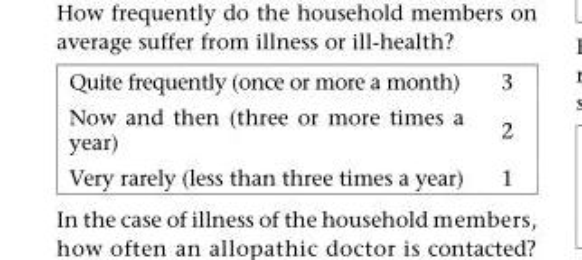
<table><tbody><tr><td>Quite frequently (once or more a month)</td><td>3</td></tr><tr><td>Now and then (three or more times a year)</td><td>2</td></tr><tr><td>Very rarely (less than three times a year)</td><td>1</td></tr></tbody></table>